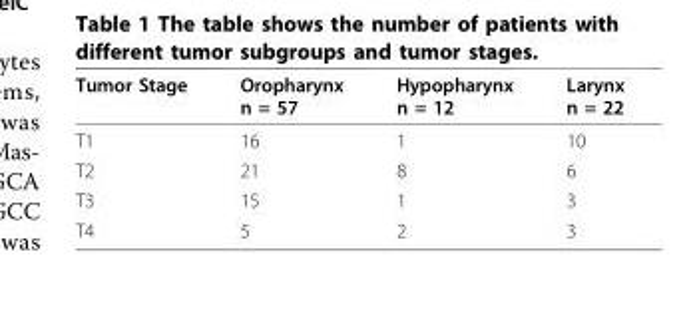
<table><thead><tr><td>Tumor Stage</td><td>Oropharynx n = 57</td><td>Hypopharynx n = 12</td><td>Larynx n = 22</td></tr></thead><tbody><tr><td>T1</td><td>16</td><td>1</td><td>10</td></tr><tr><td>T2</td><td>21</td><td>8</td><td>6</td></tr><tr><td>T3</td><td>15</td><td>1</td><td>3</td></tr><tr><td>T4</td><td>5</td><td>2</td><td>3</td></tr></tbody></table>